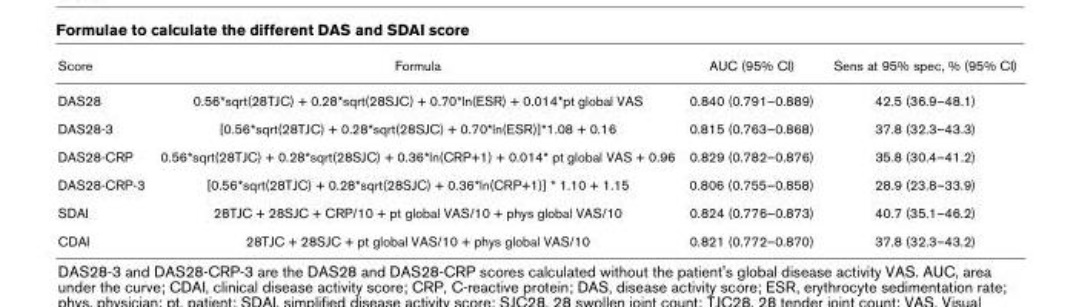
<table><thead><tr><td>Score</td><td>Formula</td><td>AUC (95% CI)</td><td>Sens at 95% spec, % (95% CI)</td></tr></thead><tbody><tr><td>DAS28</td><td>0.56*sqrt(28TJC) + 0.28*sqrt(28SJC) + 0.70*ln(ESR) + 0.014*pt global VAS</td><td>0.840 (0.791–0.889)</td><td>42.5 (36.9–48.1)</td></tr><tr><td>DAS28-3</td><td>[0.56*sqrt(28TJC) + 0.28*sqrt(28SJC) + 0.70*ln(ESR)]*1.08 + 0.16</td><td>0.815 (0.763–0.868)</td><td>37.8 (32.3–43.3)</td></tr><tr><td>DAS28-CRP</td><td>0.56*sqrt(28TJC) + 0.28*sqrt(28SJC) + 0.36*ln(CRP+1) + 0.014* pt global VAS + 0.96</td><td>0.829 (0.782–0.876)</td><td>35.8 (30.4–41.2)</td></tr><tr><td>DAS28-CRP-3</td><td>[0.56*sqrt(28TJC) + 0.28*sqrt(28SJC) + 0.36*ln(CRP+1)] * 1.10 + 1.15</td><td>0.806 (0.755–0.858)</td><td>28.9 (23.8–33.9)</td></tr><tr><td>SDAI</td><td>28TJC + 28SJC + CRP/10 + pt global VAS/10 + phys global VAS/10</td><td>0.824 (0.776–0.873)</td><td>40.7 (35.1–46.2)</td></tr><tr><td>CDAI</td><td>28TJC + 28SJC + pt global VAS/10 + phys global VAS/10</td><td>0.821 (0.772–0.870)</td><td>37.8 (32.3–43.2)</td></tr></tbody></table>